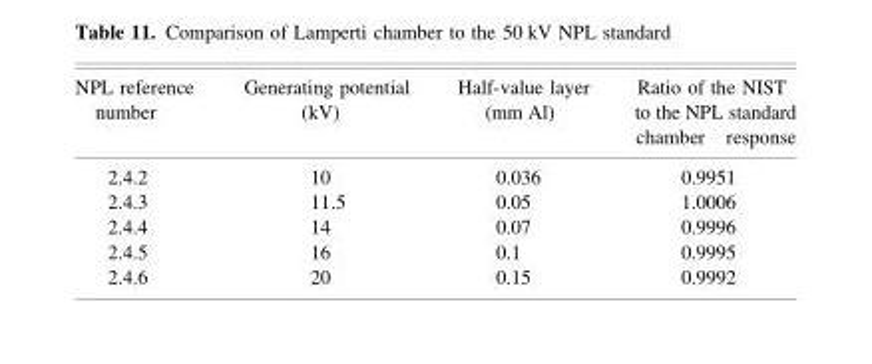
<table><thead><tr><td>NPL reference number</td><td>Generating potential (kV)</td><td>Half-value layer (mm Al)</td><td>Ratio of the NIST to the NPL standard chamber response</td></tr></thead><tbody><tr><td>2.4.2</td><td>10</td><td>0.036</td><td>0.9951</td></tr><tr><td>2.4.3</td><td>11.5</td><td>0.05</td><td>1.0006</td></tr><tr><td>2.4.4</td><td>14</td><td>0.07</td><td>0.9996</td></tr><tr><td>2.4.5</td><td>16</td><td>0.1</td><td>0.9995</td></tr><tr><td>2.4.6</td><td>20</td><td>0.15</td><td>0.9992</td></tr></tbody></table>